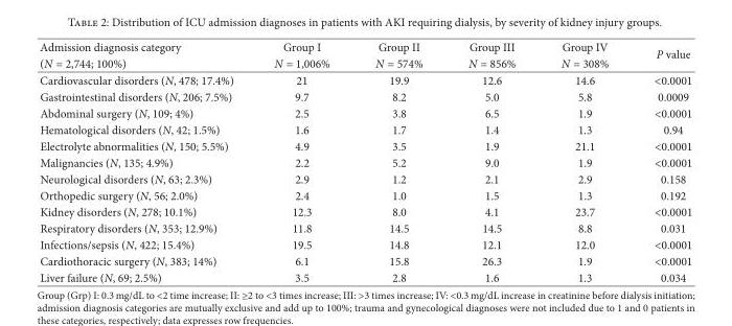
<table><thead><tr><td rowspan="2">Admission diagnosis category (N = 2,744; 100%)</td><td rowspan="2">Group I N = 1,006%</td><td rowspan="2">Group II N = 574%</td><td rowspan="2">Group III N = 856%</td><td rowspan="2">Group IV N = 308%</td><td rowspan="2">P value</td></tr><tr></tr></thead><tbody><tr><td>Cardiovascular disorders (N, 478; 17.4%)</td><td>21</td><td>19.9</td><td>12.6</td><td>14.6</td><td>&lt;0.0001</td></tr><tr><td>Gastrointestinal disorders (N, 206; 7.5%)</td><td>9.7</td><td>8.2</td><td>5.0</td><td>5.8</td><td>0.0009</td></tr><tr><td>Abdominal surgery (N, 109; 4%)</td><td>2.5</td><td>3.8</td><td>6.5</td><td>1.9</td><td>&lt;0.0001</td></tr><tr><td>Hematological disorders (N, 42; 1.5%)</td><td>1.6</td><td>1.7</td><td>1.4</td><td>1.3</td><td>0.94</td></tr><tr><td>Electrolyte abnormalities (N, 150; 5.5%)</td><td>4.9</td><td>3.5</td><td>1.9</td><td>21.1</td><td>&lt;0.0001</td></tr><tr><td>Malignancies (N, 135; 4.9%)</td><td>2.2</td><td>5.2</td><td>9.0</td><td>1.9</td><td>&lt;0.0001</td></tr><tr><td>Neurological disorders (N, 63; 2.3%)</td><td>2.9</td><td>1.2</td><td>2.1</td><td>2.9</td><td>0.158</td></tr><tr><td>Orthopedic surgery (N, 56; 2.0%)</td><td>2.4</td><td>1.0</td><td>1.5</td><td>1.3</td><td>0.192</td></tr><tr><td>Kidney disorders (N, 278; 10.1%)</td><td>12.3</td><td>8.0</td><td>4.1</td><td>23.7</td><td>&lt;0.0001</td></tr><tr><td>Respiratory disorders (N, 353; 12.9%)</td><td>11.8</td><td>14.5</td><td>14.5</td><td>8.8</td><td>0.031</td></tr><tr><td>Infections/sepsis (N, 422; 15.4%)</td><td>19.5</td><td>14.8</td><td>12.1</td><td>12.0</td><td>&lt;0.0001</td></tr><tr><td>Cardiothoracic surgery (N, 383; 14%)</td><td>6.1</td><td>15.8</td><td>26.3</td><td>1.9</td><td>&lt;0.0001</td></tr><tr><td>Liver failure (N, 69; 2.5%)</td><td>3.5</td><td>2.8</td><td>1.6</td><td>1.3</td><td>0.034</td></tr></tbody></table>